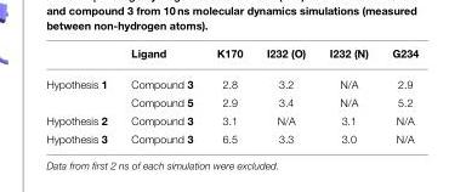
<table><thead><tr><td></td><td>Ligand</td><td>K170</td><td>I232 (O)</td><td>I232 (N)</td><td>G234</td></tr></thead><tbody><tr><td rowspan="2">Hypothesis 1</td><td>Compound 3</td><td>2.8</td><td>3.2</td><td>N/A</td><td>2.9</td></tr><tr><td>Compound 5</td><td>2.9</td><td>3.4</td><td>N/A</td><td>5.2</td></tr><tr><td>Hypothesis 2</td><td>Compound 3</td><td>3.1</td><td>N/A</td><td>3.1</td><td>N/A</td></tr><tr><td>Hypothesis 3</td><td>Compound 3</td><td>6.5</td><td>3.3</td><td>3.0</td><td>N/A</td></tr></tbody></table>